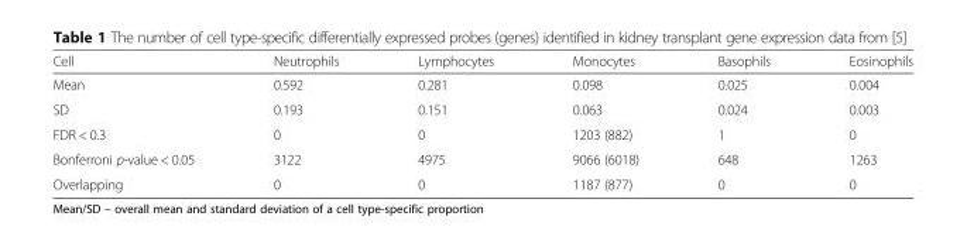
<table><thead><tr><td>Cell</td><td>Neutrophils</td><td>Lymphocytes</td><td>Monocytes</td><td>Basophils</td><td>Eosinophils</td></tr></thead><tbody><tr><td>Mean</td><td>0.592</td><td>0.281</td><td>0.098</td><td>0.025</td><td>0.004</td></tr><tr><td>SD</td><td>0.193</td><td>0.151</td><td>0.063</td><td>0.024</td><td>0.003</td></tr><tr><td>FDR &lt; 0.3</td><td>0</td><td>0</td><td>1203 (882)</td><td>1</td><td>0</td></tr><tr><td>Bonferroni p-value &lt; 0.05</td><td>3122</td><td>4975</td><td>9066 (6018)</td><td>648</td><td>1263</td></tr><tr><td>Overlapping</td><td>0</td><td>0</td><td>1187 (877)</td><td>0</td><td>0</td></tr></tbody></table>